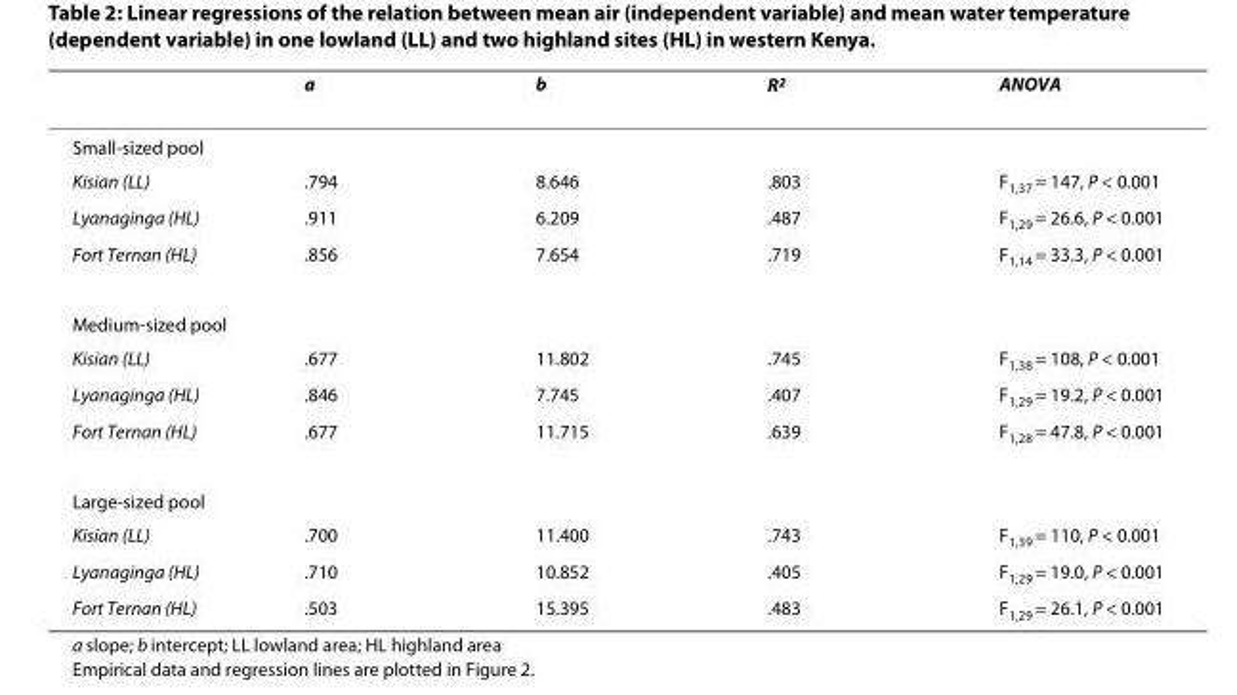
<table><thead><tr><td></td><td>a</td><td>b</td><td>R<sup>2</sup></td><td>ANOVA</td></tr></thead><tbody><tr><td colspan="5">Small-sized pool</td></tr><tr><td>Kisian (LL)</td><td>.794</td><td>8.646</td><td>.803</td><td>F<sub>1,37</sub> = 147, P &lt; 0.001</td></tr><tr><td>Lyanaginga (HL)</td><td>.911</td><td>6.209</td><td>.487</td><td>F<sub>1,29</sub> = 26.6, P &lt; 0.001</td></tr><tr><td>Fort Ternan (HL)</td><td>.856</td><td>7.654</td><td>.719</td><td>F<sub>1,14</sub> = 33.3, P &lt; 0.001</td></tr><tr><td colspan="5">Medium-sized pool</td></tr><tr><td>Kisian (LL)</td><td>.677</td><td>11.802</td><td>.745</td><td>F<sub>1,38</sub> = 108, P &lt; 0.001</td></tr><tr><td>Lyanaginga (HL)</td><td>.846</td><td>7.745</td><td>.407</td><td>F<sub>1,29</sub> = 19.2, P &lt; 0.001</td></tr><tr><td>Fort Ternan (HL)</td><td>.677</td><td>11.715</td><td>.639</td><td>F<sub>1,28</sub> = 47.8, P &lt; 0.001</td></tr><tr><td colspan="5">Large-sized pool</td></tr><tr><td>Kisian (LL)</td><td>.700</td><td>11.400</td><td>.743</td><td>F<sub>1,39</sub> = 110, P &lt; 0.001</td></tr><tr><td>Lyanaginga (HL)</td><td>.710</td><td>10.852</td><td>.405</td><td>F<sub>1,29</sub> = 19.0, P &lt; 0.001</td></tr><tr><td>Fort Ternan (HL)</td><td>.503</td><td>15.395</td><td>.483</td><td>F<sub>1,29</sub> = 26.1, P &lt; 0.001</td></tr></tbody></table>